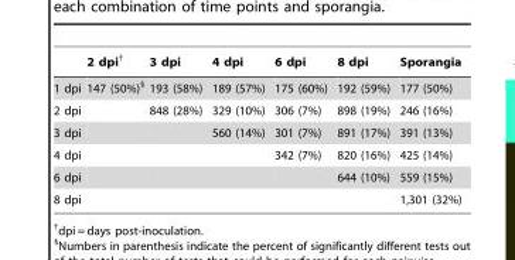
<table><thead><tr><td></td><td>2 dpi†</td><td>3 dpi</td><td>4 dpi</td><td>6 dpi</td><td>8 dpi</td><td>Sporangia</td></tr></thead><tbody><tr><td>1 dpi</td><td>147 (50%)§</td><td>193 (58%)</td><td>189 (57%)</td><td>175 (60%)</td><td>192 (59%)</td><td>177 (50%)</td></tr><tr><td>2 dpi</td><td></td><td>848 (28%)</td><td>329 (10%)</td><td>306 (7%)</td><td>898 (19%)</td><td>246 (16%)</td></tr><tr><td>3 dpi</td><td></td><td></td><td>560 (14%)</td><td>301 (7%)</td><td>891 (17%)</td><td>391 (13%)</td></tr><tr><td>4 dpi</td><td></td><td></td><td></td><td>342 (7%)</td><td>820 (16%)</td><td>425 (14%)</td></tr><tr><td>6 dpi</td><td></td><td></td><td></td><td></td><td>644 (10%)</td><td>559 (15%)</td></tr><tr><td>8 dpi</td><td></td><td></td><td></td><td></td><td></td><td>1,301 (32%)</td></tr></tbody></table>